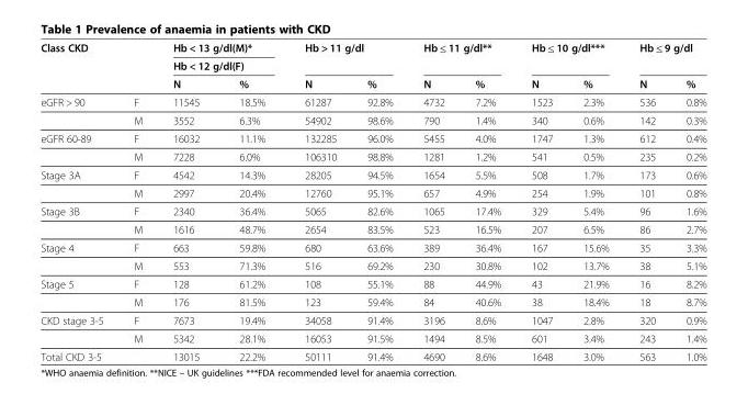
<table><thead><tr><td colspan="2">Class CKD</td><td rowspan="2" colspan="2">Hb &lt; 13 g/dl(M)* Hb &lt; 12 g/dl(F)</td><td colspan="2">Hb &gt; 11 g/dl</td><td colspan="2">Hb ≤ 11 g/dl**</td><td colspan="2">Hb ≤ 10 g/dl***</td><td colspan="2">Hb ≤ 9 g/dl</td></tr><tr><td rowspan="2"></td><td rowspan="2"></td><td rowspan="2">N</td><td rowspan="2">%</td><td rowspan="2">N</td><td rowspan="2">%</td><td rowspan="2">N</td><td rowspan="2">%</td><td rowspan="2">N</td><td rowspan="2">%</td></tr><tr><td>N</td><td>%</td></tr></thead><tbody><tr><td rowspan="2">eGFR &gt; 90</td><td>F</td><td>11545</td><td>18.5%</td><td>61287</td><td>92.8%</td><td>4732</td><td>7.2%</td><td>1523</td><td>2.3%</td><td>536</td><td>0.8%</td></tr><tr><td>M</td><td>3552</td><td>6.3%</td><td>54902</td><td>98.6%</td><td>790</td><td>1.4%</td><td>340</td><td>0.6%</td><td>142</td><td>0.3%</td></tr><tr><td rowspan="2">eGFR 60-89</td><td>F</td><td>16032</td><td>11.1%</td><td>132285</td><td>96.0%</td><td>5455</td><td>4.0%</td><td>1747</td><td>1.3%</td><td>612</td><td>0.4%</td></tr><tr><td>M</td><td>7228</td><td>6.0%</td><td>106310</td><td>98.8%</td><td>1281</td><td>1.2%</td><td>541</td><td>0.5%</td><td>235</td><td>0.2%</td></tr><tr><td rowspan="2">Stage 3A</td><td>F</td><td>4542</td><td>14.3%</td><td>28205</td><td>94.5%</td><td>1654</td><td>5.5%</td><td>508</td><td>1.7%</td><td>173</td><td>0.6%</td></tr><tr><td>M</td><td>2997</td><td>20.4%</td><td>12760</td><td>95.1%</td><td>657</td><td>4.9%</td><td>254</td><td>1.9%</td><td>101</td><td>0.8%</td></tr><tr><td rowspan="2">Stage 3B</td><td>F</td><td>2340</td><td>36.4%</td><td>5065</td><td>82.6%</td><td>1065</td><td>17.4%</td><td>329</td><td>5.4%</td><td>96</td><td>1.6%</td></tr><tr><td>M</td><td>1616</td><td>48.7%</td><td>2654</td><td>83.5%</td><td>523</td><td>16.5%</td><td>207</td><td>6.5%</td><td>86</td><td>2.7%</td></tr><tr><td rowspan="2">Stage 4</td><td>F</td><td>663</td><td>59.8%</td><td>680</td><td>63.6%</td><td>389</td><td>36.4%</td><td>167</td><td>15.6%</td><td>35</td><td>3.3%</td></tr><tr><td>M</td><td>553</td><td>71.3%</td><td>516</td><td>69.2%</td><td>230</td><td>30.8%</td><td>102</td><td>13.7%</td><td>38</td><td>5.1%</td></tr><tr><td rowspan="2">Stage 5</td><td>F</td><td>128</td><td>61.2%</td><td>108</td><td>55.1%</td><td>88</td><td>44.9%</td><td>43</td><td>21.9%</td><td>16</td><td>8.2%</td></tr><tr><td>M</td><td>176</td><td>81.5%</td><td>123</td><td>59.4%</td><td>84</td><td>40.6%</td><td>38</td><td>18.4%</td><td>18</td><td>8.7%</td></tr><tr><td rowspan="2">CKD stage 3-5</td><td>F</td><td>7673</td><td>19.4%</td><td>34058</td><td>91.4%</td><td>3196</td><td>8.6%</td><td>1047</td><td>2.8%</td><td>320</td><td>0.9%</td></tr><tr><td>M</td><td>5342</td><td>28.1%</td><td>16053</td><td>91.5%</td><td>1494</td><td>8.5%</td><td>601</td><td>3.4%</td><td>243</td><td>1.4%</td></tr><tr><td colspan="2">Total CKD 3-5</td><td>13015</td><td>22.2%</td><td>50111</td><td>91.4%</td><td>4690</td><td>8.6%</td><td>1648</td><td>3.0%</td><td>563</td><td>1.0%</td></tr></tbody></table>